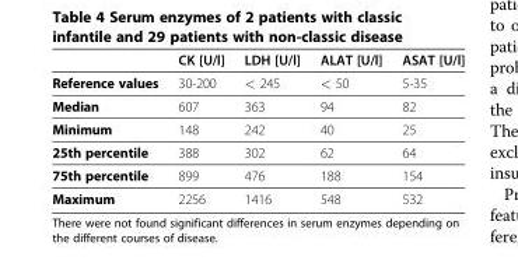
<table><thead><tr><td></td><td>CK [U/l]</td><td>LDH [U/l]</td><td>ALAT [U/l]</td><td>ASAT [U/l]</td></tr></thead><tbody><tr><td>Reference values</td><td>30-200</td><td>&lt; 245</td><td>&lt; 50</td><td>5-35</td></tr><tr><td>Median</td><td>607</td><td>363</td><td>94</td><td>82</td></tr><tr><td>Minimum</td><td>148</td><td>242</td><td>40</td><td>25</td></tr><tr><td>25th percentile</td><td>388</td><td>302</td><td>62</td><td>64</td></tr><tr><td>75th percentile</td><td>899</td><td>476</td><td>188</td><td>154</td></tr><tr><td>Maximum</td><td>2256</td><td>1416</td><td>548</td><td>532</td></tr></tbody></table>